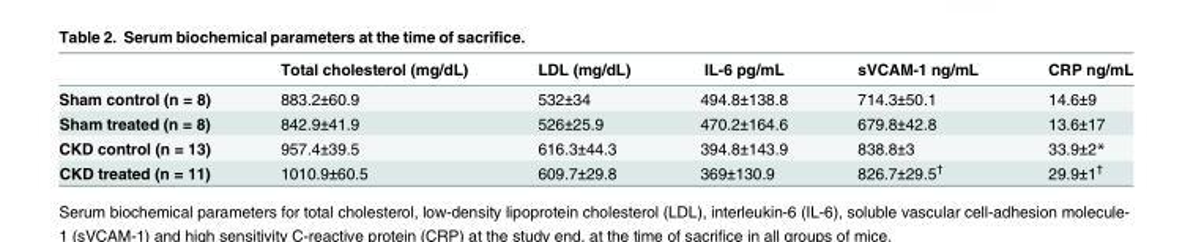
<table><thead><tr><td></td><td>Total cholesterol (mg/dL)</td><td>LDL (mg/dL)</td><td>IL-6 pg/mL</td><td>sVCAM-1 ng/mL</td><td>CRP ng/mL</td></tr></thead><tbody><tr><td>Sham control (n = 8)</td><td>883.2±60.9</td><td>532±34</td><td>494.8±138.8</td><td>714.3±50.1</td><td>14.6±9</td></tr><tr><td>Sham treated (n = 8)</td><td>842.9±41.9</td><td>526±25.9</td><td>470.2±164.6</td><td>679.8±42.8</td><td>13.6±17</td></tr><tr><td>CKD control (n = 13)</td><td>957.4±39.5</td><td>616.3±44.3</td><td>394.8±143.9</td><td>838.8±3</td><td>33.9±2*</td></tr><tr><td>CKD treated (n = 11)</td><td>1010.9±60.5</td><td>609.7±29.8</td><td>369±130.9</td><td>826.7±29.5<sup>†</sup></td><td>29.9±1<sup>†</sup></td></tr></tbody></table>